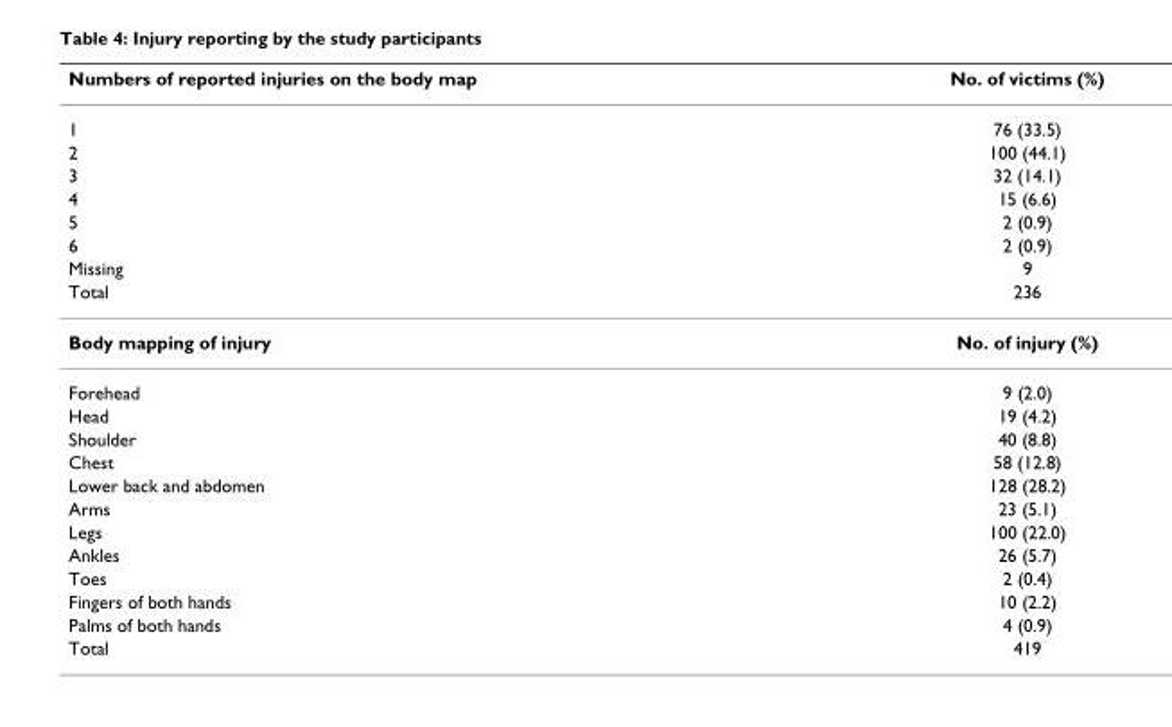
<table><thead><tr><td>Numbers of reported injuries on the body map</td><td>No. of victims (%)</td></tr></thead><tbody><tr><td>1</td><td>76 (33.5)</td></tr><tr><td>2</td><td>100 (44.1)</td></tr><tr><td>3</td><td>32 (14.1)</td></tr><tr><td>4</td><td>15 (6.6)</td></tr><tr><td>5</td><td>2 (0.9)</td></tr><tr><td>6</td><td>2 (0.9)</td></tr><tr><td>Missing</td><td>9</td></tr><tr><td>Total</td><td>236</td></tr><tr><td>Body mapping of injury</td><td>No. of injury (%)</td></tr><tr><td>Forehead</td><td>9 (2.0)</td></tr><tr><td>Head</td><td>19 (4.2)</td></tr><tr><td>Shoulder</td><td>40 (8.8)</td></tr><tr><td>Chest</td><td>58 (12.8)</td></tr><tr><td>Lower back and abdomen</td><td>128 (28.2)</td></tr><tr><td>Arms</td><td>23 (5.1)</td></tr><tr><td>Legs</td><td>100 (22.0)</td></tr><tr><td>Ankles</td><td>26 (5.7)</td></tr><tr><td>Toes</td><td>2 (0.4)</td></tr><tr><td>Fingers of both hands</td><td>10 (2.2)</td></tr><tr><td>Palms of both hands</td><td>4 (0.9)</td></tr><tr><td>Total</td><td>419</td></tr></tbody></table>